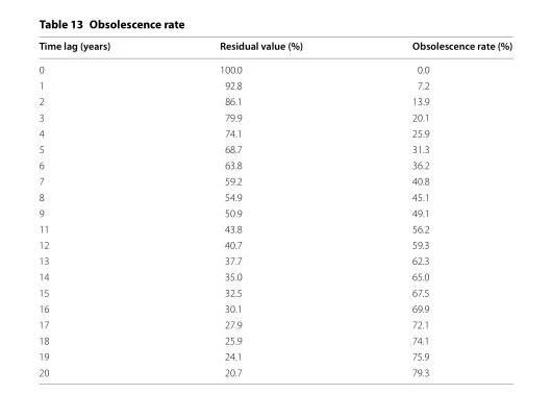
<table><thead><tr><td>Time lag (years)</td><td>Residual value (%)</td><td>Obsolescence rate (%)</td></tr></thead><tbody><tr><td>0</td><td>100.0</td><td>0.0</td></tr><tr><td>1</td><td>92.8</td><td>7.2</td></tr><tr><td>2</td><td>86.1</td><td>13.9</td></tr><tr><td>3</td><td>79.9</td><td>20.1</td></tr><tr><td>4</td><td>74.1</td><td>25.9</td></tr><tr><td>5</td><td>68.7</td><td>31.3</td></tr><tr><td>6</td><td>63.8</td><td>36.2</td></tr><tr><td>7</td><td>59.2</td><td>40.8</td></tr><tr><td>8</td><td>54.9</td><td>45.1</td></tr><tr><td>9</td><td>50.9</td><td>49.1</td></tr><tr><td>11</td><td>43.8</td><td>56.2</td></tr><tr><td>12</td><td>40.7</td><td>59.3</td></tr><tr><td>13</td><td>37.7</td><td>62.3</td></tr><tr><td>14</td><td>35.0</td><td>65.0</td></tr><tr><td>15</td><td>32.5</td><td>67.5</td></tr><tr><td>16</td><td>30.1</td><td>69.9</td></tr><tr><td>17</td><td>27.9</td><td>72.1</td></tr><tr><td>18</td><td>25.9</td><td>74.1</td></tr><tr><td>19</td><td>24.1</td><td>75.9</td></tr><tr><td>20</td><td>20.7</td><td>79.3</td></tr></tbody></table>